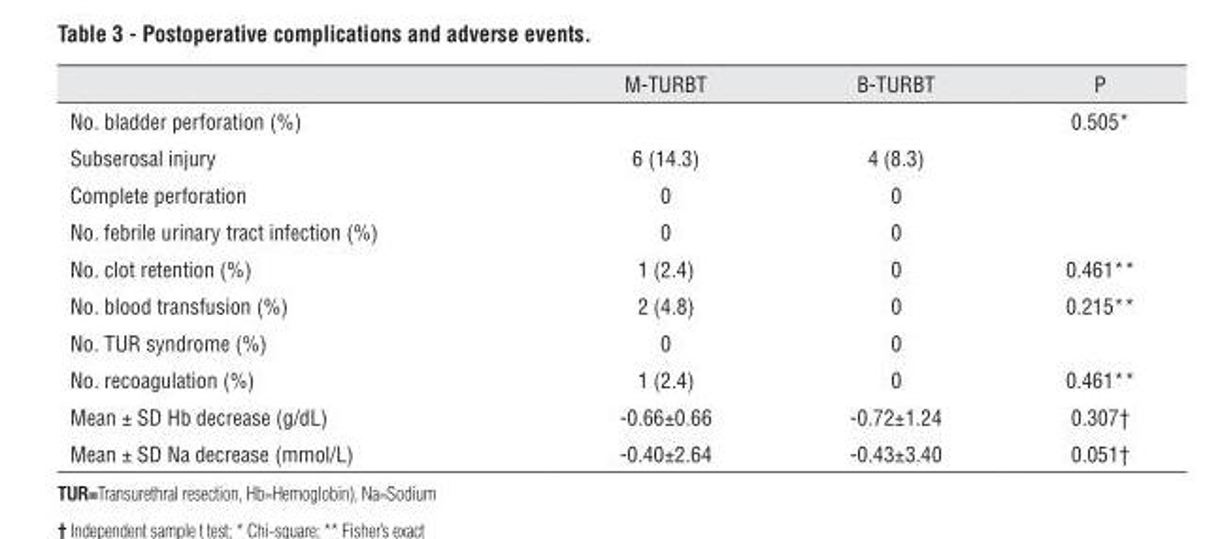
<table><thead><tr><td></td><td>M-TURBT</td><td>B-TURBT</td><td>P</td></tr></thead><tbody><tr><td>No. bladder perforation (%)</td><td></td><td></td><td>0.505*</td></tr><tr><td>Subserosal injury</td><td>6 (14.3)</td><td>4 (8.3)</td><td></td></tr><tr><td>Complete perforation</td><td>0</td><td>0</td><td></td></tr><tr><td>No. febrile urinary tract infection (%)</td><td>0</td><td>0</td><td></td></tr><tr><td>No. clot retention (%)</td><td>1 (2.4)</td><td>0</td><td>0.461**</td></tr><tr><td>No. blood transfusion (%)</td><td>2 (4.8)</td><td>0</td><td>0.215**</td></tr><tr><td>No. TUR syndrome (%)</td><td>0</td><td>0</td><td></td></tr><tr><td>No. recoagulation (%)</td><td>1 (2.4)</td><td>0</td><td>0.461**</td></tr><tr><td>Mean ± SD Hb decrease (g/dL)</td><td>-0.66±0.66</td><td>-0.72±1.24</td><td>0.307†</td></tr><tr><td>Mean ± SD Na decrease (mmol/L)</td><td>-0.40±2.64</td><td>-0.43±3.40</td><td>0.051†</td></tr></tbody></table>